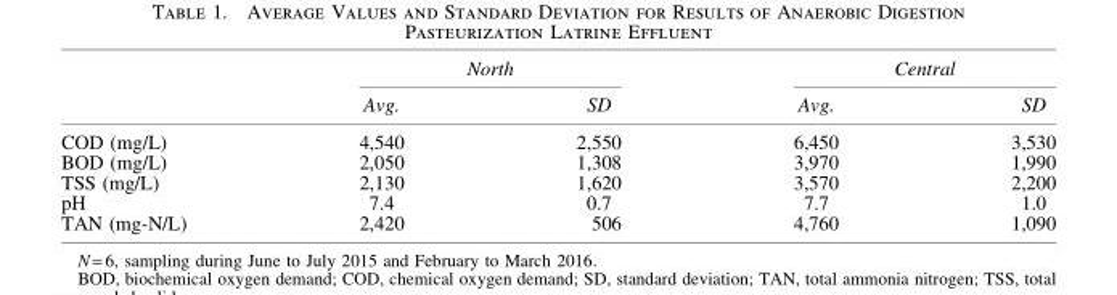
<table><thead><tr><td rowspan="2"></td><td colspan="2">North</td><td colspan="2">Central</td></tr><tr><td>Avg.</td><td>SD</td><td>Avg.</td><td>SD</td></tr></thead><tbody><tr><td>COD (mg/L)</td><td>4,540</td><td>2,550</td><td>6,450</td><td>3,530</td></tr><tr><td>BOD (mg/L)</td><td>2,050</td><td>1,308</td><td>3,970</td><td>1,990</td></tr><tr><td>TSS (mg/L)</td><td>2,130</td><td>1,620</td><td>3,570</td><td>2,200</td></tr><tr><td>pH</td><td>7.4</td><td>0.7</td><td>7.7</td><td>1.0</td></tr><tr><td>TAN (mg-N/L)</td><td>2,420</td><td>506</td><td>4,760</td><td>1,090</td></tr></tbody></table>